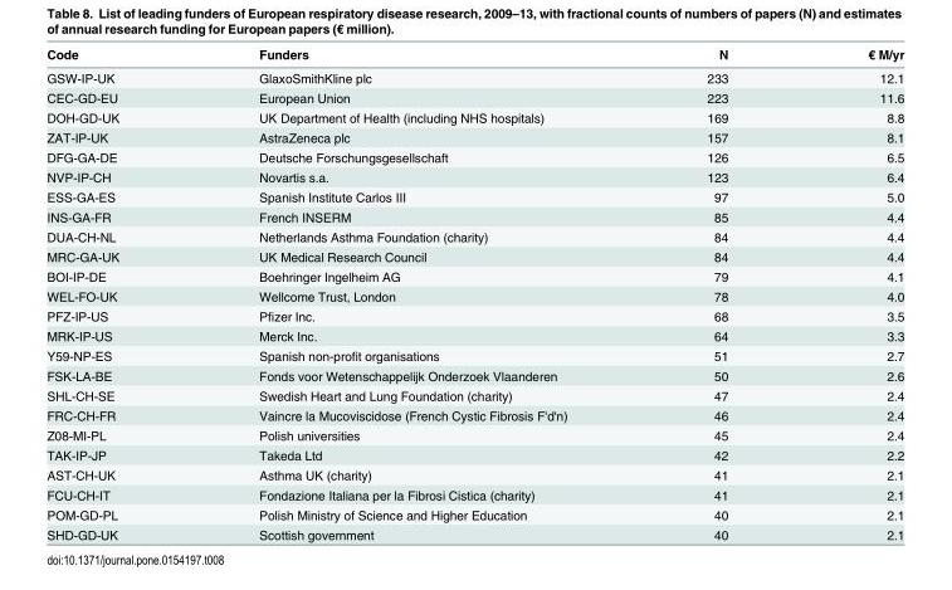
<table><thead><tr><td>Code</td><td>Funders</td><td>N</td><td>€ M/yr</td></tr></thead><tbody><tr><td>GSW-IP-UK</td><td>GlaxoSmithKline plc</td><td>233</td><td>12.1</td></tr><tr><td>CEC-GD-EU</td><td>European Union</td><td>223</td><td>11.6</td></tr><tr><td>DOH-GD-UK</td><td>UK Department of Health (including NHS hospitals)</td><td>169</td><td>8.8</td></tr><tr><td>ZAT-IP-UK</td><td>AstraZeneca plc</td><td>157</td><td>8.1</td></tr><tr><td>DFG-GA-DE</td><td>Deutsche Forschungsgesellschaft</td><td>126</td><td>6.5</td></tr><tr><td>NVP-IP-CH</td><td>Novartis s.a.</td><td>123</td><td>6.4</td></tr><tr><td>ESS-GA-ES</td><td>Spanish Institute Carlos III</td><td>97</td><td>5.0</td></tr><tr><td>INS-GA-FR</td><td>French INSERM</td><td>85</td><td>4.4</td></tr><tr><td>DUA-CH-NL</td><td>Netherlands Asthma Foundation (charity)</td><td>84</td><td>4.4</td></tr><tr><td>MRC-GA-UK</td><td>UK Medical Research Council</td><td>84</td><td>4.4</td></tr><tr><td>BOI-IP-DE</td><td>Boehringer Ingelheim AG</td><td>79</td><td>4.1</td></tr><tr><td>WEL-FO-UK</td><td>Wellcome Trust, London</td><td>78</td><td>4.0</td></tr><tr><td>PFZ-IP-US</td><td>Pfizer Inc.</td><td>68</td><td>3.5</td></tr><tr><td>MRK-IP-US</td><td>Merck Inc.</td><td>64</td><td>3.3</td></tr><tr><td>Y59-NP-ES</td><td>Spanish non-profit organisations</td><td>51</td><td>2.7</td></tr><tr><td>FSK-LA-BE</td><td>Fonds voor Wetenschappelijk Onderzoek Vlaanderen</td><td>50</td><td>2.6</td></tr><tr><td>SHL-CH-SE</td><td>Swedish Heart and Lung Foundation (charity)</td><td>47</td><td>2.4</td></tr><tr><td>FRC-CH-FR</td><td>Vaincre la Mucoviscidose (French Cystic Fibrosis F&#x27;d&#x27;n)</td><td>46</td><td>2.4</td></tr><tr><td>Z08-MI-PL</td><td>Polish universities</td><td>45</td><td>2.4</td></tr><tr><td>TAK-IP-JP</td><td>Takeda Ltd</td><td>42</td><td>2.2</td></tr><tr><td>AST-CH-UK</td><td>Asthma UK (charity)</td><td>41</td><td>2.1</td></tr><tr><td>FCU-CH-IT</td><td>Fondazione Italiana per la Fibrosi Cistica (charity)</td><td>41</td><td>2.1</td></tr><tr><td>POM-GD-PL</td><td>Polish Ministry of Science and Higher Education</td><td>40</td><td>2.1</td></tr><tr><td>SHD-GD-UK</td><td>Scottish government</td><td>40</td><td>2.1</td></tr></tbody></table>